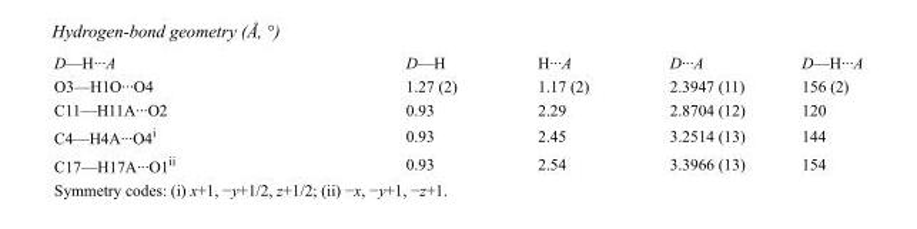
<table><tbody><tr><td>D—H···A</td><td>D—H</td><td>H···A</td><td>D···A</td><td>D—H···A</td></tr><tr><td>O3—H1O···O4</td><td>1.27 (2)</td><td>1.17 (2)</td><td>2.3947 (11)</td><td>156 (2)</td></tr><tr><td>C11—H11A···O2</td><td>0.93</td><td>2.29</td><td>2.8704 (12)</td><td>120</td></tr><tr><td>C4—H4A···O4<sup>i</sup></td><td>0.93</td><td>2.45</td><td>3.2514 (13)</td><td>144</td></tr><tr><td>C17—H17A···O1<sup>ii</sup></td><td>0.93</td><td>2.54</td><td>3.3966 (13)</td><td>154</td></tr></tbody></table>